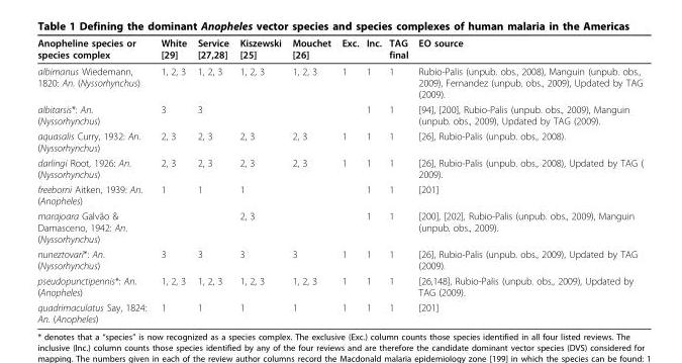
<table><thead><tr><td>Anopheline species or species complex</td><td>White [29]</td><td>Service [27,28]</td><td>Kiszewski [25]</td><td>Mouchet [26]</td><td>Exc.</td><td>Inc.</td><td>TAG final</td><td>EO source</td></tr></thead><tbody><tr><td>albimanus Wiedemann, 1820: An. (Nyssorhynchus)</td><td>1, 2, 3</td><td>1, 2, 3</td><td>1, 2, 3</td><td>1, 2, 3</td><td>1</td><td>1</td><td>1</td><td>Rubio-Palis (unpub. obs., 2008), Manguin (unpub. obs., 2009), Fernandez (unpub. obs., 2009), Updated by TAG (2009).</td></tr><tr><td>albitarsis*: An. (Nyssorhynchus)</td><td>3</td><td>3</td><td></td><td></td><td></td><td>1</td><td>1</td><td>[94], [200], Rubio-Palis (unpub. obs., 2009), Manguin (unpub. obs., 2009), Updated by TAG (2009).</td></tr><tr><td>aquasalis Curry, 1932: An. (Nyssorhynchus)</td><td>2, 3</td><td>2, 3</td><td>2, 3</td><td>2, 3</td><td>1</td><td>1</td><td>1</td><td>[26], Rubio-Palis (unpub. obs., 2008).</td></tr><tr><td>darlingi Root, 1926: An. (Nyssorhynchus)</td><td>2, 3</td><td>2, 3</td><td>2, 3</td><td>2, 3</td><td>1</td><td>1</td><td>1</td><td>[26], Rubio-Palis (unpub. obs., 2008), Updated by TAG ( 2009).</td></tr><tr><td>freeborni Aitken, 1939: An. (Anopheles)</td><td>1</td><td>1</td><td>1</td><td></td><td></td><td>1</td><td>1</td><td>[201]</td></tr><tr><td>marajoara Galvão &amp; Damasceno, 1942: An. (Nyssorhynchus)</td><td></td><td></td><td>2, 3</td><td></td><td></td><td>1</td><td>1</td><td>[200], [202], Rubio-Palis (unpub. obs., 2009), Manguin (unpub. obs., 2009).</td></tr><tr><td>nuneztovari*: An. (Nyssorhynchus)</td><td>3</td><td>3</td><td>3</td><td>3</td><td>1</td><td>1</td><td>1</td><td>[26], Rubio-Palis (unpub. obs., 2009), Updated by TAG (2009).</td></tr><tr><td>pseudopunctipennis*: An. (Anopheles)</td><td>1, 2, 3</td><td>1, 2, 3</td><td>1, 2, 3</td><td>1, 2, 3</td><td>1</td><td>1</td><td>1</td><td>[26,148], Rubio-Palis (unpub. obs., 2009), Updated by TAG (2009).</td></tr><tr><td>quadrimaculatus Say, 1824: An. (Anopheles)</td><td>1</td><td>1</td><td>1</td><td>1</td><td>1</td><td>1</td><td>1</td><td>[201]</td></tr></tbody></table>